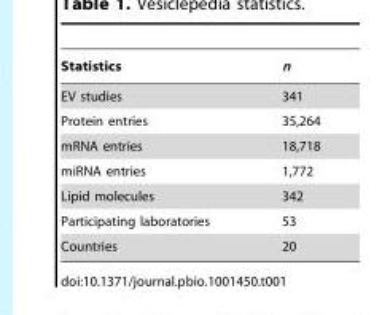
<table><thead><tr><td>Statistics</td><td>n</td></tr></thead><tbody><tr><td>EV studies</td><td>341</td></tr><tr><td>Protein entries</td><td>35,264</td></tr><tr><td>mRNA entries</td><td>18,718</td></tr><tr><td>miRNA entries</td><td>1,772</td></tr><tr><td>Lipid molecules</td><td>342</td></tr><tr><td>Participating laboratories</td><td>53</td></tr><tr><td>Countries</td><td>20</td></tr></tbody></table>